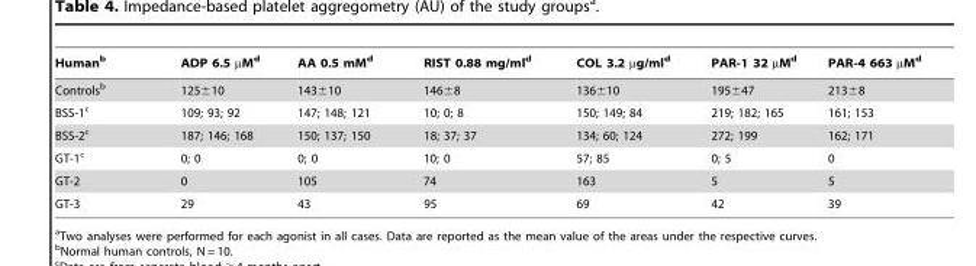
<table><thead><tr><td>Human<sup>b</sup></td><td>ADP 6.5 µM<sup>d</sup></td><td>AA 0.5 mM<sup>d</sup></td><td>RIST 0.88 mg/ml<sup>d</sup></td><td>COL 3.2 µg/ml<sup>d</sup></td><td>PAR-1 32 µM<sup>d</sup></td><td>PAR-4 663 µM<sup>d</sup></td></tr></thead><tbody><tr><td>Controls<sup>b</sup></td><td>125±10</td><td>143±10</td><td>146±8</td><td>136±10</td><td>195±47</td><td>213±8</td></tr><tr><td>BSS-1<sup>c</sup></td><td>109; 93; 92</td><td>147; 148; 121</td><td>10; 0; 8</td><td>150; 149; 84</td><td>219; 182; 165</td><td>161; 153</td></tr><tr><td>BSS-2<sup>c</sup></td><td>187; 146; 168</td><td>150; 137; 150</td><td>18; 37; 37</td><td>134; 60; 124</td><td>272; 199</td><td>162; 171</td></tr><tr><td>GT-1<sup>c</sup></td><td>0; 0</td><td>0; 0</td><td>10; 0</td><td>57; 85</td><td>0; 5</td><td>0</td></tr><tr><td>GT-2</td><td>0</td><td>105</td><td>74</td><td>163</td><td>5</td><td>5</td></tr><tr><td>GT-3</td><td>29</td><td>43</td><td>95</td><td>69</td><td>42</td><td>39</td></tr></tbody></table>